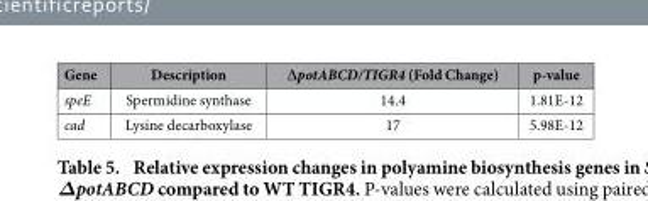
<table><thead><tr><td>Gene</td><td>Description</td><td>∆potABCD/TIGR4 (Fold Change)</td><td>p-value</td></tr></thead><tbody><tr><td>speE</td><td>Spermidine synthase</td><td>14.4</td><td>1.81E-12</td></tr><tr><td>cad</td><td>Lysine decarboxylase</td><td>17</td><td>5.98E-12</td></tr></tbody></table>